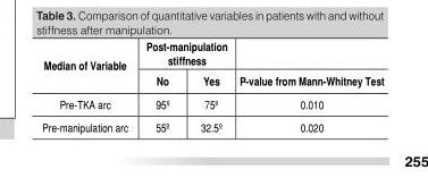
<table><thead><tr><td rowspan="2">Median of Variable</td><td colspan="2">Post-manipulation stiffness</td><td rowspan="2">P-value from Mann-Whitney Test</td></tr><tr><td>No</td><td>Yes</td></tr></thead><tbody><tr><td>Pre-TKA arc</td><td>95º</td><td>75º</td><td>0.010</td></tr><tr><td>Pre-manipulation arc</td><td>55º</td><td>32.5º</td><td>0.020</td></tr></tbody></table>